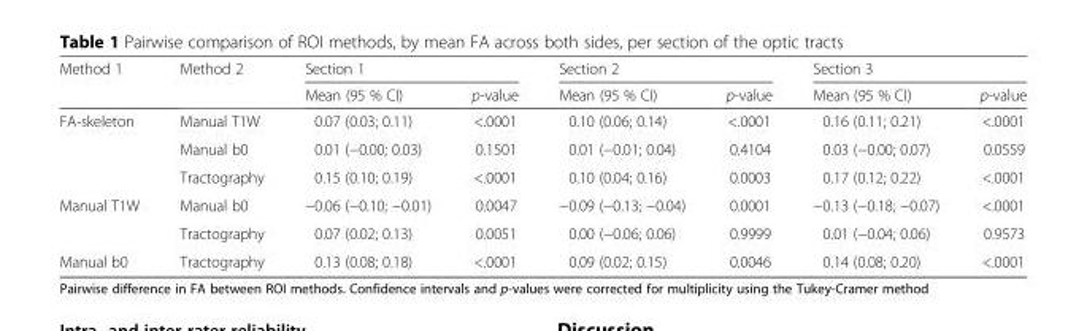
<table><thead><tr><td rowspan="2">Method 1</td><td rowspan="2">Method 2</td><td colspan="2">Section 1</td><td colspan="2">Section 2</td><td colspan="2">Section 3</td></tr><tr><td>Mean (95 % CI)</td><td>p-value</td><td>Mean (95 % CI)</td><td>p-value</td><td>Mean (95 % CI)</td><td>p-value</td></tr></thead><tbody><tr><td rowspan="3">FA-skeleton</td><td>Manual T1W</td><td>0.07 (0.03; 0.11)</td><td>&lt;.0001</td><td>0.10 (0.06; 0.14)</td><td>&lt;.0001</td><td>0.16 (0.11; 0.21)</td><td>&lt;.0001</td></tr><tr><td>Manual b0</td><td>0.01 (−0.00; 0.03)</td><td>0.1501</td><td>0.01 (−0.01; 0.04)</td><td>0.4104</td><td>0.03 (−0.00; 0.07)</td><td>0.0559</td></tr><tr><td>Tractography</td><td>0.15 (0.10; 0.19)</td><td>&lt;.0001</td><td>0.10 (0.04; 0.16)</td><td>0.0003</td><td>0.17 (0.12; 0.22)</td><td>&lt;.0001</td></tr><tr><td rowspan="2">Manual T1W</td><td>Manual b0</td><td>−0.06 (−0.10; −0.01)</td><td>0.0047</td><td>−0.09 (−0.13; −0.04)</td><td>0.0001</td><td>−0.13 (−0.18; −0.07)</td><td>&lt;.0001</td></tr><tr><td>Tractography</td><td>0.07 (0.02; 0.13)</td><td>0.0051</td><td>0.00 (−0.06; 0.06)</td><td>0.9999</td><td>0.01 (−0.04; 0.06)</td><td>0.9573</td></tr><tr><td>Manual b0</td><td>Tractography</td><td>0.13 (0.08; 0.18)</td><td>&lt;.0001</td><td>0.09 (0.02; 0.15)</td><td>0.0046</td><td>0.14 (0.08; 0.20)</td><td>&lt;.0001</td></tr></tbody></table>